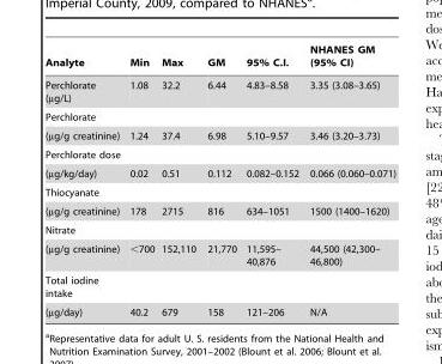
<table><thead><tr><td>Analyte</td><td>Min</td><td>Max</td><td>GM</td><td>95% C.I.</td><td>NHANES GM (95% CI)</td></tr></thead><tbody><tr><td>Perchlorate (µg/L)</td><td>1.08</td><td>32.2</td><td>6.44</td><td>4.83–8.58</td><td>3.35 (3.08–3.65)</td></tr><tr><td colspan="6">Perchlorate</td></tr><tr><td>(µg/g creatinine)</td><td>1.24</td><td>37.4</td><td>6.98</td><td>5.10–9.57</td><td>3.46 (3.20–3.73)</td></tr><tr><td colspan="6">Perchlorate dose</td></tr><tr><td>(µg/kg/day)</td><td>0.02</td><td>0.51</td><td>0.112</td><td>0.082–0.152</td><td>0.066 (0.060–0.071)</td></tr><tr><td colspan="6">Thiocyanate</td></tr><tr><td>(µg/g creatinine)</td><td>178</td><td>2715</td><td>816</td><td>634–1051</td><td>1500 (1400–1620)</td></tr><tr><td colspan="6">Nitrate</td></tr><tr><td>(µg/g creatinine)</td><td>&lt;700</td><td>152,110</td><td>21,770</td><td>11,595– 40,876</td><td>44,500 (42,300– 46,800)</td></tr><tr><td colspan="6">Total iodine intake</td></tr><tr><td>(µg/day)</td><td>40.2</td><td>679</td><td>158</td><td>121–206</td><td>N/A</td></tr></tbody></table>